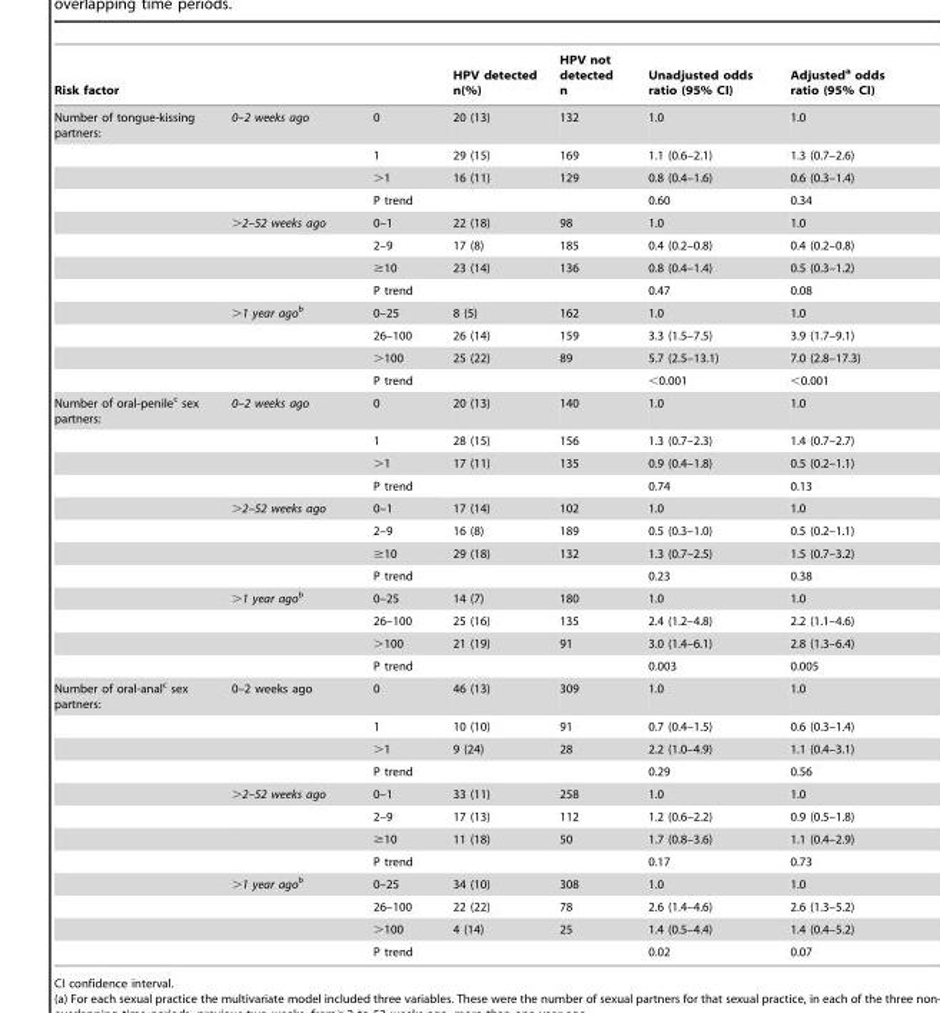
<table><thead><tr><td colspan="3">Risk factor</td><td rowspan="2">HPV detected n(%) 20 (13)</td><td rowspan="2">HPV not detected n 132</td><td rowspan="2">Unadjusted odds ratio (95% CI) 1.0</td><td rowspan="2">Adjusted<sup>a</sup> odds ratio (95% CI) 1.0</td></tr><tr><td>Number of tongue-kissing partners:</td><td>0–2 weeks ago</td><td>0</td></tr></thead><tbody><tr><td></td><td></td><td>1</td><td>29 (15)</td><td>169</td><td>1.1 (0.6–2.1)</td><td>1.3 (0.7–2.6)</td></tr><tr><td></td><td></td><td>&gt;1</td><td>16 (11)</td><td>129</td><td>0.8 (0.4–1.6)</td><td>0.6 (0.3–1.4)</td></tr><tr><td></td><td></td><td>P trend</td><td></td><td></td><td>0.60</td><td>0.34</td></tr><tr><td></td><td>&gt;2–52 weeks ago</td><td>0–1</td><td>22 (18)</td><td>98</td><td>1.0</td><td>1.0</td></tr><tr><td></td><td></td><td>2–9</td><td>17 (8)</td><td>185</td><td>0.4 (0.2–0.8)</td><td>0.4 (0.2–0.8)</td></tr><tr><td></td><td></td><td>≥10</td><td>23 (14)</td><td>136</td><td>0.8 (0.4–1.4)</td><td>0.5 (0.3–1.2)</td></tr><tr><td></td><td></td><td>P trend</td><td></td><td></td><td>0.47</td><td>0.08</td></tr><tr><td></td><td>&gt;1 year ago<sup>b</sup></td><td>0–25</td><td>8 (5)</td><td>162</td><td>1.0</td><td>1.0</td></tr><tr><td></td><td></td><td>26–100</td><td>26 (14)</td><td>159</td><td>3.3 (1.5–7.5)</td><td>3.9 (1.7–9.1)</td></tr><tr><td></td><td></td><td>&gt;100</td><td>25 (22)</td><td>89</td><td>5.7 (2.5–13.1)</td><td>7.0 (2.8–17.3)</td></tr><tr><td></td><td></td><td>P trend</td><td></td><td></td><td>&lt;0.001</td><td>&lt;0.001</td></tr><tr><td rowspan="12">Number of oral-penile<sup>c</sup> sex partners:</td><td>0–2 weeks ago</td><td>0</td><td>20 (13)</td><td>140</td><td>1.0</td><td>1.0</td></tr><tr><td></td><td>1</td><td>28 (15)</td><td>156</td><td>1.3 (0.7–2.3)</td><td>1.4 (0.7–2.7)</td></tr><tr><td></td><td>&gt;1</td><td>17 (11)</td><td>135</td><td>0.9 (0.4–1.8)</td><td>0.5 (0.2–1.1)</td></tr><tr><td></td><td>P trend</td><td></td><td></td><td>0.74</td><td>0.13</td></tr><tr><td>&gt;2–52 weeks ago</td><td>0–1</td><td>17 (14)</td><td>102</td><td>1.0</td><td>1.0</td></tr><tr><td></td><td>2–9</td><td>16 (8)</td><td>189</td><td>0.5 (0.3–1.0)</td><td>0.5 (0.2–1.1)</td></tr><tr><td></td><td>≥10</td><td>29 (18)</td><td>132</td><td>1.3 (0.7–2.5)</td><td>1.5 (0.7–3.2)</td></tr><tr><td></td><td>P trend</td><td></td><td></td><td>0.23</td><td>0.38</td></tr><tr><td>&gt;1 year ago<sup>b</sup></td><td>0–25</td><td>14 (7)</td><td>180</td><td>1.0</td><td>1.0</td></tr><tr><td></td><td>26–100</td><td>25 (16)</td><td>135</td><td>2.4 (1.2–4.8)</td><td>2.2 (1.1–4.6)</td></tr><tr><td></td><td>&gt;100</td><td>21 (19)</td><td>91</td><td>3.0 (1.4–6.1)</td><td>2.8 (1.3–6.4)</td></tr><tr><td></td><td>P trend</td><td></td><td></td><td>0.003</td><td>0.005</td></tr><tr><td rowspan="12">Number of oral-anal<sup>c</sup> sex partners:</td><td>0–2 weeks ago</td><td>0</td><td>46 (13)</td><td>309</td><td>1.0</td><td>1.0</td></tr><tr><td></td><td>1</td><td>10 (10)</td><td>91</td><td>0.7 (0.4–1.5)</td><td>0.6 (0.3–1.4)</td></tr><tr><td></td><td>&gt;1</td><td>9 (24)</td><td>28</td><td>2.2 (1.0–4.9)</td><td>1.1 (0.4–3.1)</td></tr><tr><td></td><td>P trend</td><td></td><td></td><td>0.29</td><td>0.56</td></tr><tr><td>&gt;2–52 weeks ago</td><td>0–1</td><td>33 (11)</td><td>258</td><td>1.0</td><td>1.0</td></tr><tr><td></td><td>2–9</td><td>17 (13)</td><td>112</td><td>1.2 (0.6–2.2)</td><td>0.9 (0.5–1.8)</td></tr><tr><td></td><td>≥10</td><td>11 (18)</td><td>50</td><td>1.7 (0.8–3.6)</td><td>1.1 (0.4–2.9)</td></tr><tr><td></td><td>P trend</td><td></td><td></td><td>0.17</td><td>0.73</td></tr><tr><td>&gt;1 year ago<sup>b</sup></td><td>0–25</td><td>34 (10)</td><td>308</td><td>1.0</td><td>1.0</td></tr><tr><td></td><td>26–100</td><td>22 (22)</td><td>78</td><td>2.6 (1.4–4.6)</td><td>2.6 (1.3–5.2)</td></tr><tr><td></td><td>&gt;100</td><td>4 (14)</td><td>25</td><td>1.4 (0.5–4.4)</td><td>1.4 (0.4–5.2)</td></tr><tr><td></td><td>P trend</td><td></td><td></td><td>0.02</td><td>0.07</td></tr></tbody></table>